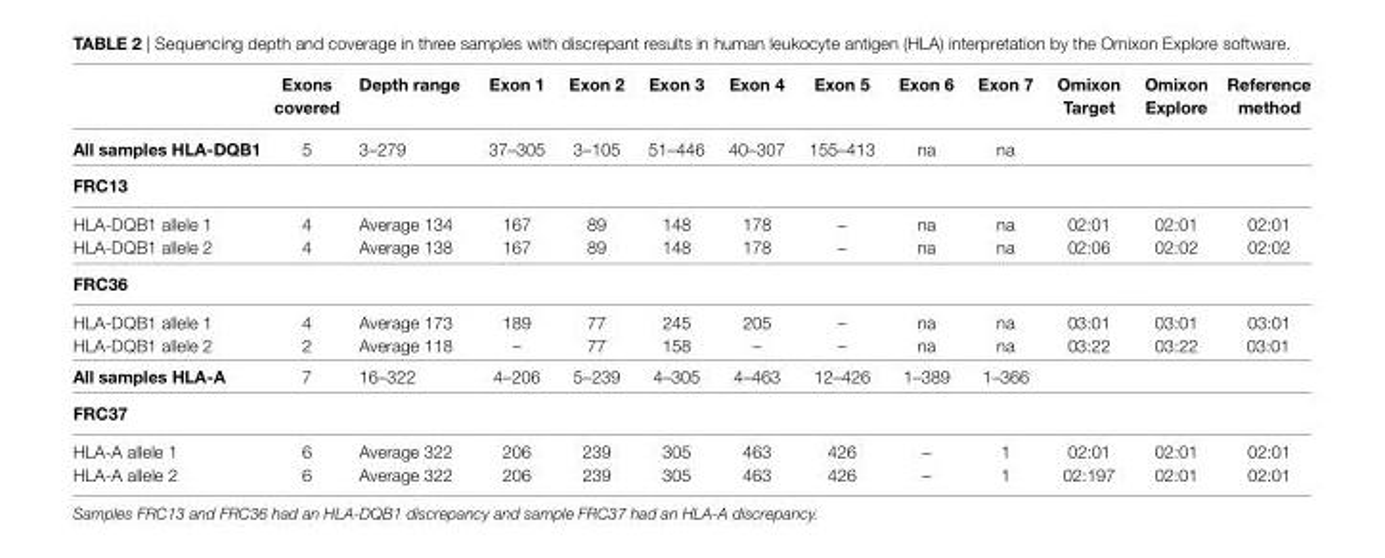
<table><thead><tr><td></td><td>exons covered</td><td>Depth range</td><td>exon 1</td><td>exon 2</td><td>exon 3</td><td>exon 4</td><td>exon 5</td><td>exon 6</td><td>exon 7</td><td>Omixon Target</td><td>Omixon explore</td><td>reference method</td></tr></thead><tbody><tr><td>all samples hla-DQB1</td><td>5</td><td>3–279</td><td>37–305</td><td>3–105</td><td>51–446</td><td>40–307</td><td>155–413</td><td>na</td><td>na</td><td></td><td></td><td></td></tr><tr><td colspan="13">Frc13</td></tr><tr><td>HLA-DQB1 allele 1</td><td>4</td><td>Average 134</td><td>167</td><td>89</td><td>148</td><td>178</td><td>–</td><td>na</td><td>na</td><td>02:01</td><td>02:01</td><td>02:01</td></tr><tr><td>HLA-DQB1 allele 2</td><td>4</td><td>Average 138</td><td>167</td><td>89</td><td>148</td><td>178</td><td>–</td><td>na</td><td>na</td><td>02:06</td><td>02:02</td><td>02:02</td></tr><tr><td colspan="13">Frc36</td></tr><tr><td>HLA-DQB1 allele 1</td><td>4</td><td>Average 173</td><td>189</td><td>77</td><td>245</td><td>205</td><td>–</td><td>na</td><td>na</td><td>03:01</td><td>03:01</td><td>03:01</td></tr><tr><td>HLA-DQB1 allele 2</td><td>2</td><td>Average 118</td><td>–</td><td>77</td><td>158</td><td>–</td><td>–</td><td>na</td><td>na</td><td>03:22</td><td>03:22</td><td>03:01</td></tr><tr><td>all samples hla-a</td><td>7</td><td>16–322</td><td>4–206</td><td>5–239</td><td>4–305</td><td>4–463</td><td>12–426</td><td>1–389</td><td>1–366</td><td></td><td></td><td></td></tr><tr><td colspan="13">Frc37</td></tr><tr><td>HLA-A allele 1</td><td>6</td><td>Average 322</td><td>206</td><td>239</td><td>305</td><td>463</td><td>426</td><td>–</td><td>1</td><td>02:01</td><td>02:01</td><td>02:01</td></tr><tr><td>HLA-A allele 2</td><td>6</td><td>Average 322</td><td>206</td><td>239</td><td>305</td><td>463</td><td>426</td><td>–</td><td>1</td><td>02:197</td><td>02:01</td><td>02:01</td></tr></tbody></table>